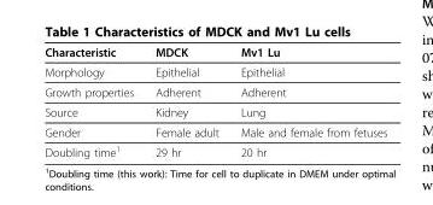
<table><thead><tr><td>Characteristic</td><td>MDCK</td><td>Mv1 Lu</td></tr></thead><tbody><tr><td>Morphology</td><td>Epithelial</td><td>Epithelial</td></tr><tr><td>Growth properties</td><td>Adherent</td><td>Adherent</td></tr><tr><td>Source</td><td>Kidney</td><td>Lung</td></tr><tr><td>Gender</td><td>Female adult</td><td>Male and female from fetuses</td></tr><tr><td>Doubling time<sup>1</sup></td><td>29 hr</td><td>20 hr</td></tr></tbody></table>